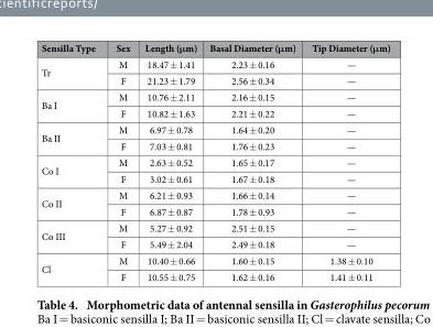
<table><thead><tr><td>Sensilla Type</td><td>Sex</td><td>Length (μm)</td><td>Basal Diameter (μm)</td><td>Tip Diameter (μm)</td></tr></thead><tbody><tr><td rowspan="2">Tr</td><td>M</td><td>18.47 ± 1.41</td><td>2.23 ± 0.16</td><td>—</td></tr><tr><td>F</td><td>21.23 ± 1.79</td><td>2.56 ± 0.34</td><td>—</td></tr><tr><td rowspan="2">Ba I</td><td>M</td><td>10.76 ± 2.11</td><td>2.16 ± 0.15</td><td>—</td></tr><tr><td>F</td><td>10.82 ± 1.63</td><td>2.21 ± 0.22</td><td>—</td></tr><tr><td rowspan="2">Ba II</td><td>M</td><td>6.97 ± 0.78</td><td>1.64 ± 0.20</td><td>—</td></tr><tr><td>F</td><td>7.03 ± 0.81</td><td>1.76 ± 0.23</td><td>—</td></tr><tr><td rowspan="2">Co I</td><td>M</td><td>2.63 ± 0.52</td><td>1.65 ± 0.17</td><td>—</td></tr><tr><td>F</td><td>3.02 ± 0.61</td><td>1.67 ± 0.18</td><td>—</td></tr><tr><td rowspan="2">Co II</td><td>M</td><td>6.21 ± 0.93</td><td>1.66 ± 0.14</td><td>—</td></tr><tr><td>F</td><td>6.87 ± 0.87</td><td>1.78 ± 0.93</td><td>—</td></tr><tr><td rowspan="2">Co III</td><td>M</td><td>5.27 ± 0.92</td><td>2.51 ± 0.15</td><td>—</td></tr><tr><td>F</td><td>5.49 ± 2.04</td><td>2.49 ± 0.18</td><td>—</td></tr><tr><td rowspan="2">Cl</td><td>M</td><td>10.40 ± 0.66</td><td>1.60 ± 0.15</td><td>1.38 ± 0.10</td></tr><tr><td>F</td><td>10.55 ± 0.75</td><td>1.62 ± 0.16</td><td>1.41 ± 0.11</td></tr></tbody></table>